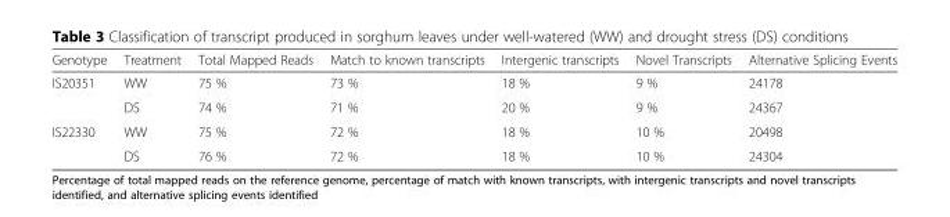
<table><thead><tr><td>Genotype</td><td>Treatment</td><td>Total Mapped Reads</td><td>Match to known transcripts</td><td>Intergenic transcripts</td><td>Novel Transcripts</td><td>Alternative Splicing Events</td></tr></thead><tbody><tr><td rowspan="2">IS20351</td><td>WW</td><td>75 %</td><td>73 %</td><td>18 %</td><td>9 %</td><td>24178</td></tr><tr><td>DS</td><td>74 %</td><td>71 %</td><td>20 %</td><td>9 %</td><td>24367</td></tr><tr><td rowspan="2">IS22330</td><td>WW</td><td>75 %</td><td>72 %</td><td>18 %</td><td>10 %</td><td>20498</td></tr><tr><td>DS</td><td>76 %</td><td>72 %</td><td>18 %</td><td>10 %</td><td>24304</td></tr></tbody></table>